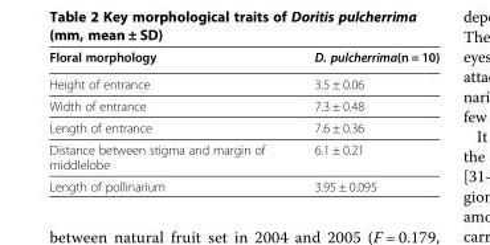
<table><thead><tr><td>Floral morphology</td><td>D. pulcherrima(n = 10)</td></tr></thead><tbody><tr><td>Height of entrance</td><td>3.5 ± 0.06</td></tr><tr><td>Width of entrance</td><td>7.3 ± 0.48</td></tr><tr><td>Length of entrance</td><td>7.6 ± 0.36</td></tr><tr><td>Distance between stigma and margin of middlelobe</td><td>6.1 ± 0.21</td></tr><tr><td>Length of pollinarium</td><td>3.95 ± 0.095</td></tr></tbody></table>